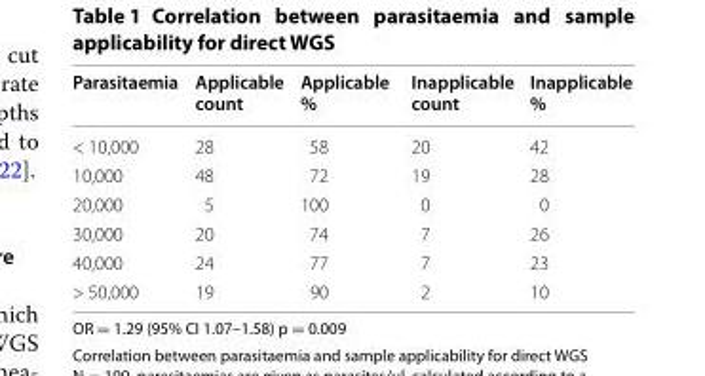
<table><thead><tr><td>Parasitaemia</td><td>Applicable count</td><td>Applicable %</td><td>Inapplicable count</td><td>Inapplicable %</td></tr></thead><tbody><tr><td>&lt; 10,000</td><td>28</td><td>58</td><td>20</td><td>42</td></tr><tr><td>10,000</td><td>48</td><td>72</td><td>19</td><td>28</td></tr><tr><td>20,000</td><td>5</td><td>100</td><td>0</td><td>0</td></tr><tr><td>30,000</td><td>20</td><td>74</td><td>7</td><td>26</td></tr><tr><td>40,000</td><td>24</td><td>77</td><td>7</td><td>23</td></tr><tr><td>&gt; 50,000</td><td>19</td><td>90</td><td>2</td><td>10</td></tr></tbody></table>